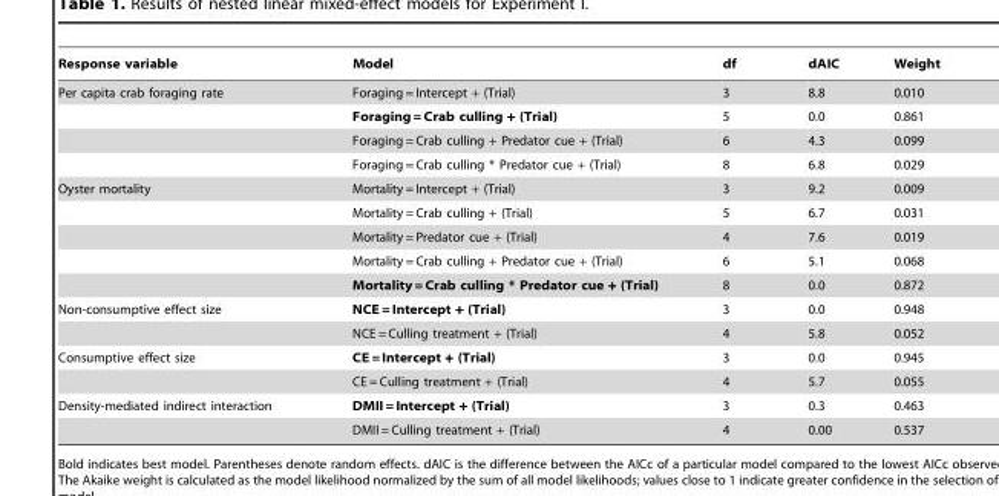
<table><thead><tr><td>Response variable</td><td>Model</td><td>df</td><td>dAIC</td><td>Weight</td></tr></thead><tbody><tr><td rowspan="4">Per capita crab foraging rate</td><td>Foraging = Intercept + (Trial)</td><td>3</td><td>8.8</td><td>0.010</td></tr><tr><td>Foraging = Crab culling + (Trial)</td><td>5</td><td>0.0</td><td>0.861</td></tr><tr><td>Foraging = Crab culling + Predator cue + (Trial)</td><td>6</td><td>4.3</td><td>0.099</td></tr><tr><td>Foraging = Crab culling * Predator cue + (Trial)</td><td>8</td><td>6.8</td><td>0.029</td></tr><tr><td rowspan="5">Oyster mortality</td><td>Mortality = Intercept + (Trial)</td><td>3</td><td>9.2</td><td>0.009</td></tr><tr><td>Mortality = Crab culling + (Trial)</td><td>5</td><td>6.7</td><td>0.031</td></tr><tr><td>Mortality = Predator cue + (Trial)</td><td>4</td><td>7.6</td><td>0.019</td></tr><tr><td>Mortality = Crab culling + Predator cue + (Trial)</td><td>6</td><td>5.1</td><td>0.068</td></tr><tr><td>Mortality = Crab culling * Predator cue + (Trial)</td><td>8</td><td>0.0</td><td>0.872</td></tr><tr><td rowspan="2">Non-consumptive effect size</td><td>NCE = Intercept + (Trial)</td><td>3</td><td>0.0</td><td>0.948</td></tr><tr><td>NCE = Culling treatment + (Trial)</td><td>4</td><td>5.8</td><td>0.052</td></tr><tr><td rowspan="2">Consumptive effect size</td><td>CE = Intercept + (Trial)</td><td>3</td><td>0.0</td><td>0.945</td></tr><tr><td>CE = Culling treatment + (Trial)</td><td>4</td><td>5.7</td><td>0.055</td></tr><tr><td rowspan="2">Density-mediated indirect interaction</td><td>DMII = Intercept + (Trial)</td><td>3</td><td>0.3</td><td>0.463</td></tr><tr><td>DMII = Culling treatment + (Trial)</td><td>4</td><td>0.00</td><td>0.537</td></tr></tbody></table>